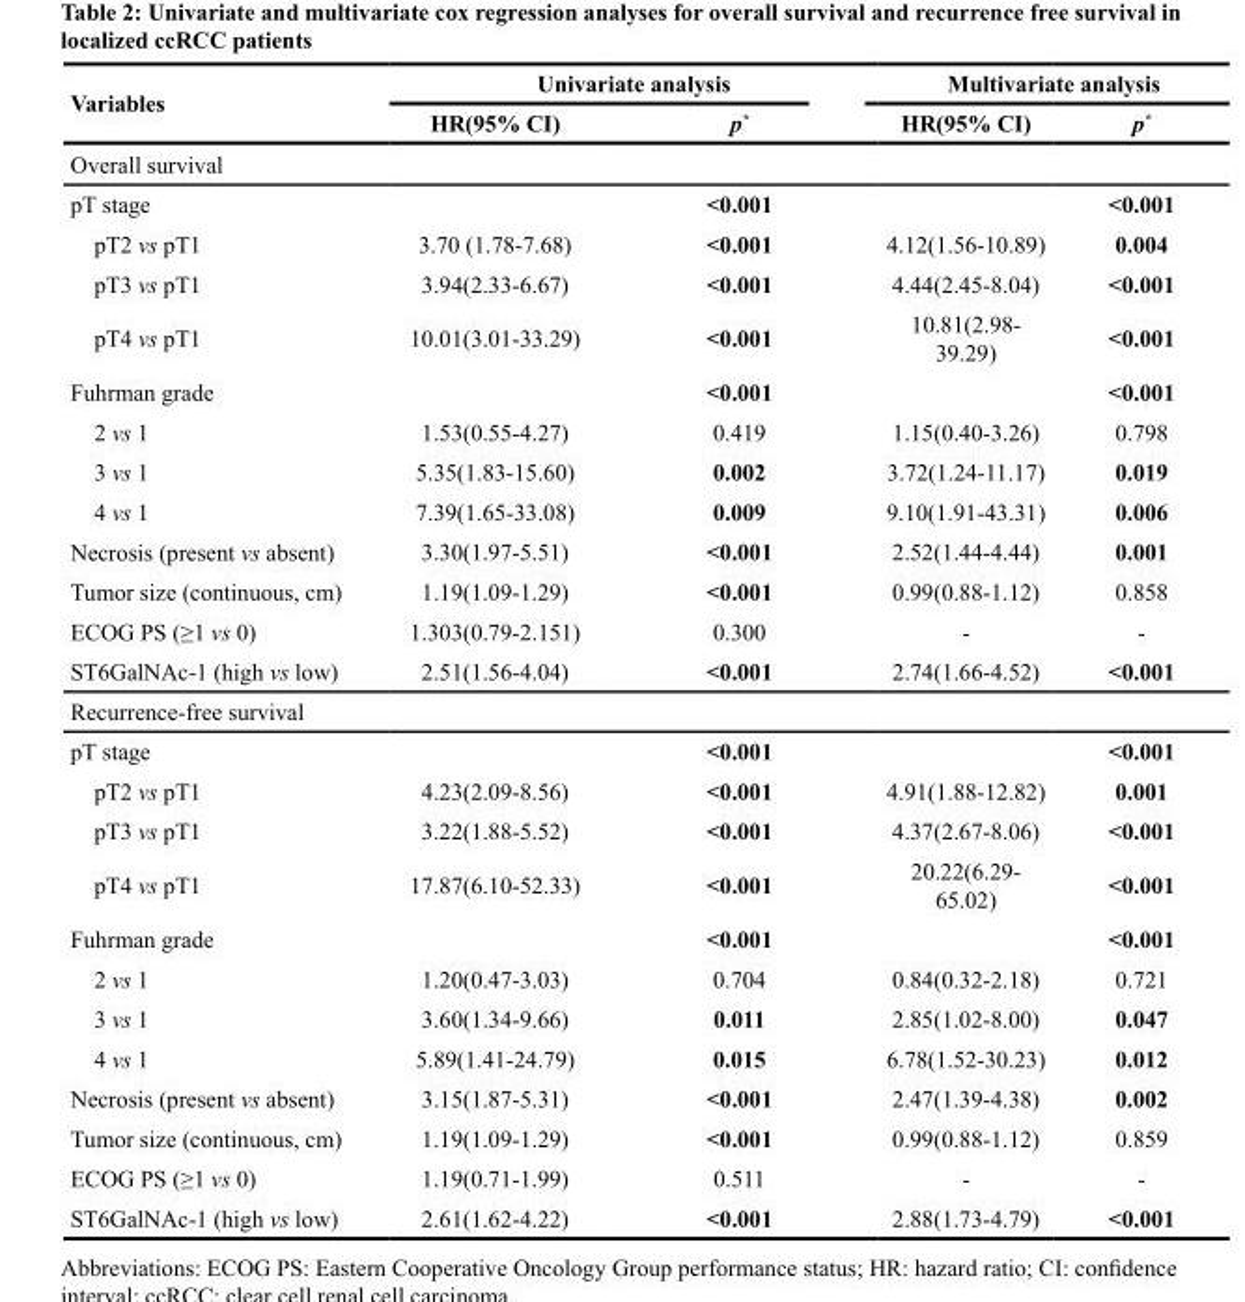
<table><thead><tr><td rowspan="2">Variables</td><td colspan="2">Univariate analysis</td><td colspan="2">Multivariate analysis</td></tr><tr><td>HR(95% CI)</td><td>p*</td><td>HR(95% CI)</td><td>p*</td></tr></thead><tbody><tr><td colspan="5">Overall survival</td></tr><tr><td>pT stage</td><td></td><td>&lt;0.001</td><td></td><td>&lt;0.001</td></tr><tr><td>pT2 vs pT1</td><td>3.70 (1.78-7.68)</td><td>&lt;0.001</td><td>4.12(1.56-10.89)</td><td>0.004</td></tr><tr><td>pT3 vs pT1</td><td>3.94(2.33-6.67)</td><td>&lt;0.001</td><td>4.44(2.45-8.04)</td><td>&lt;0.001</td></tr><tr><td>pT4 vs pT1</td><td>10.01(3.01-33.29)</td><td>&lt;0.001</td><td>10.81(2.98- 39.29)</td><td>&lt;0.001</td></tr><tr><td>Fuhrman grade</td><td></td><td>&lt;0.001</td><td></td><td>&lt;0.001</td></tr><tr><td>2 vs 1</td><td>1.53(0.55-4.27)</td><td>0.419</td><td>1.15(0.40-3.26)</td><td>0.798</td></tr><tr><td>3 vs 1</td><td>5.35(1.83-15.60)</td><td>0.002</td><td>3.72(1.24-11.17)</td><td>0.019</td></tr><tr><td>4 vs 1</td><td>7.39(1.65-33.08)</td><td>0.009</td><td>9.10(1.91-43.31)</td><td>0.006</td></tr><tr><td>Necrosis (present vs absent)</td><td>3.30(1.97-5.51)</td><td>&lt;0.001</td><td>2.52(1.44-4.44)</td><td>0.001</td></tr><tr><td>Tumor size (continuous, cm)</td><td>1.19(1.09-1.29)</td><td>&lt;0.001</td><td>0.99(0.88-1.12)</td><td>0.858</td></tr><tr><td>ECOG PS (≥1 vs 0)</td><td>1.303(0.79-2.151)</td><td>0.300</td><td>-</td><td>-</td></tr><tr><td>ST6GalNAc-1 (high vs low)</td><td>2.51(1.56-4.04)</td><td>&lt;0.001</td><td>2.74(1.66-4.52)</td><td>&lt;0.001</td></tr><tr><td colspan="5">Recurrence-free survival</td></tr><tr><td>pT stage</td><td></td><td>&lt;0.001</td><td></td><td>&lt;0.001</td></tr><tr><td>pT2 vs pT1</td><td>4.23(2.09-8.56)</td><td>&lt;0.001</td><td>4.91(1.88-12.82)</td><td>0.001</td></tr><tr><td>pT3 vs pT1</td><td>3.22(1.88-5.52)</td><td>&lt;0.001</td><td>4.37(2.67-8.06)</td><td>&lt;0.001</td></tr><tr><td>pT4 vs pT1</td><td>17.87(6.10-52.33)</td><td>&lt;0.001</td><td>20.22(6.29- 65.02)</td><td>&lt;0.001</td></tr><tr><td>Fuhrman grade</td><td></td><td>&lt;0.001</td><td></td><td>&lt;0.001</td></tr><tr><td>2 vs 1</td><td>1.20(0.47-3.03)</td><td>0.704</td><td>0.84(0.32-2.18)</td><td>0.721</td></tr><tr><td>3 vs 1</td><td>3.60(1.34-9.66)</td><td>0.011</td><td>2.85(1.02-8.00)</td><td>0.047</td></tr><tr><td>4 vs 1</td><td>5.89(1.41-24.79)</td><td>0.015</td><td>6.78(1.52-30.23)</td><td>0.012</td></tr><tr><td>Necrosis (present vs absent)</td><td>3.15(1.87-5.31)</td><td>&lt;0.001</td><td>2.47(1.39-4.38)</td><td>0.002</td></tr><tr><td>Tumor size (continuous, cm)</td><td>1.19(1.09-1.29)</td><td>&lt;0.001</td><td>0.99(0.88-1.12)</td><td>0.859</td></tr><tr><td>ECOG PS (≥1 vs 0)</td><td>1.19(0.71-1.99)</td><td>0.511</td><td>-</td><td>-</td></tr><tr><td>ST6GalNAc-1 (high vs low)</td><td>2.61(1.62-4.22)</td><td>&lt;0.001</td><td>2.88(1.73-4.79)</td><td>&lt;0.001</td></tr></tbody></table>